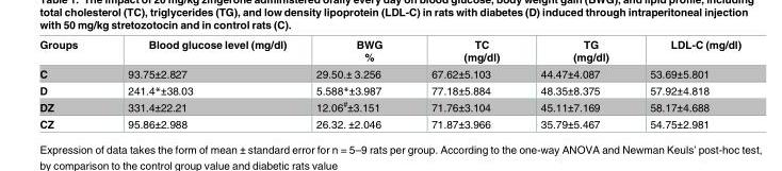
<table><thead><tr><td>Groups</td><td>Blood glucose level (mg/dl)</td><td>BWG %</td><td>TC (mg/dl)</td><td>TG (mg/dl)</td><td>LDL-C (mg/dl)</td></tr></thead><tbody><tr><td>C</td><td>93.75±2.827</td><td>29.50.± 3.256</td><td>67.62±5.103</td><td>44.47±4.087</td><td>53.69±5.801</td></tr><tr><td>D</td><td>241.4*±38.03</td><td>5.588*±3.987</td><td>77.18±5.884</td><td>48.35±8.375</td><td>57.92±4.818</td></tr><tr><td>DZ</td><td>331.4±22.21</td><td>12.06<sup>#</sup>±3.151</td><td>71.76±3.104</td><td>45.11±7.169</td><td>58.17±4.688</td></tr><tr><td>CZ</td><td>95.86±2.988</td><td>26.32. ±2.046</td><td>71.87±3.966</td><td>35.79±5.467</td><td>54.75±2.981</td></tr></tbody></table>